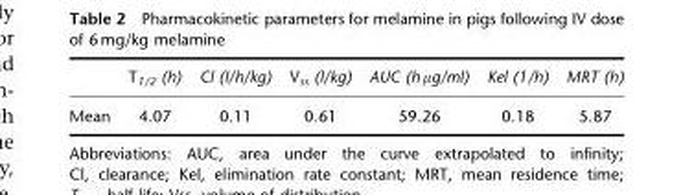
<table><thead><tr><td></td><td>T<sub>1/2</sub> (h)</td><td>Cl (l/h/kg)</td><td>V<sub>ss</sub> (l/kg)</td><td>AUC (h mg/ml)</td><td>Kel (1/h)</td><td>MRT (h)</td></tr></thead><tbody><tr><td>Mean</td><td>4.07</td><td>0.11</td><td>0.61</td><td>59.26</td><td>0.18</td><td>5.87</td></tr></tbody></table>